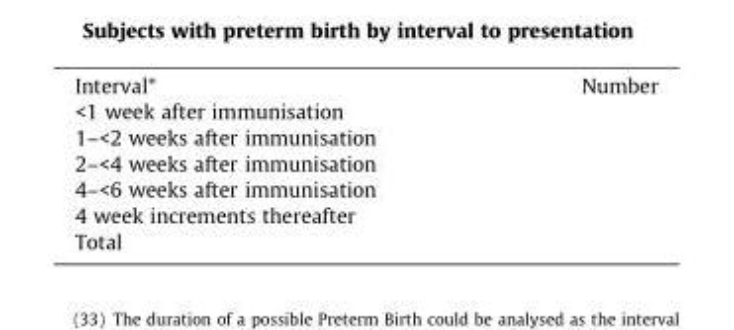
<table><tbody><tr><td>Interval*</td><td>Number</td></tr><tr><td colspan="2">&lt;1 week after immunisation</td></tr><tr><td colspan="2">1–&lt;2 weeks after immunisation</td></tr><tr><td colspan="2">2–&lt;4 weeks after immunisation</td></tr><tr><td colspan="2">4–&lt;6 weeks after immunisation</td></tr><tr><td colspan="2">4 week increments thereafter</td></tr><tr><td>Total</td><td></td></tr></tbody></table>